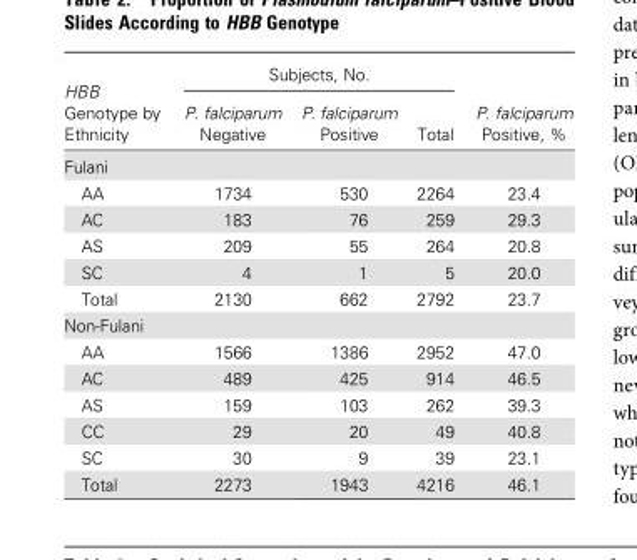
<table><thead><tr><td rowspan="2">HBB Genotype by Ethnicity</td><td colspan="3">Subjects, No.</td><td rowspan="2">P. falciparum Positive, %</td></tr><tr><td>P. falciparum Negative</td><td>P. falciparum Positive</td><td>Total</td></tr></thead><tbody><tr><td colspan="5">Fulani</td></tr><tr><td>AA</td><td>1734</td><td>530</td><td>2264</td><td>23.4</td></tr><tr><td>AC</td><td>183</td><td>76</td><td>259</td><td>29.3</td></tr><tr><td>AS</td><td>209</td><td>55</td><td>264</td><td>20.8</td></tr><tr><td>SC</td><td>4</td><td>1</td><td>5</td><td>20.0</td></tr><tr><td>Total</td><td>2130</td><td>662</td><td>2792</td><td>23.7</td></tr><tr><td colspan="5">Non-Fulani</td></tr><tr><td>AA</td><td>1566</td><td>1386</td><td>2952</td><td>47.0</td></tr><tr><td>AC</td><td>489</td><td>425</td><td>914</td><td>46.5</td></tr><tr><td>AS</td><td>159</td><td>103</td><td>262</td><td>39.3</td></tr><tr><td>CC</td><td>29</td><td>20</td><td>49</td><td>40.8</td></tr><tr><td>SC</td><td>30</td><td>9</td><td>39</td><td>23.1</td></tr><tr><td>Total</td><td>2273</td><td>1943</td><td>4216</td><td>46.1</td></tr></tbody></table>